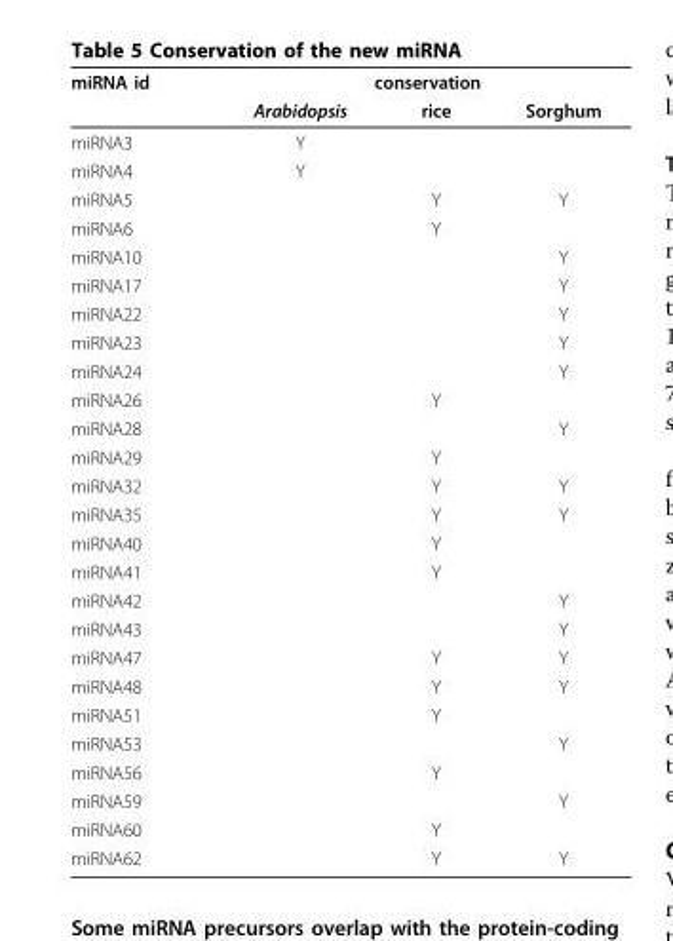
<table><thead><tr><td rowspan="2">miRNA id</td><td colspan="3">conservation</td></tr><tr><td>Arabidopsis</td><td>rice</td><td>Sorghum</td></tr></thead><tbody><tr><td>miRNA3</td><td>Y</td><td></td><td></td></tr><tr><td>miRNA4</td><td>Y</td><td></td><td></td></tr><tr><td>miRNA5</td><td></td><td>Y</td><td>Y</td></tr><tr><td>miRNA6</td><td></td><td>Y</td><td></td></tr><tr><td>miRNA10</td><td></td><td></td><td>Y</td></tr><tr><td>miRNA17</td><td></td><td></td><td>Y</td></tr><tr><td>miRNA22</td><td></td><td></td><td>Y</td></tr><tr><td>miRNA23</td><td></td><td></td><td>Y</td></tr><tr><td>miRNA24</td><td></td><td></td><td>Y</td></tr><tr><td>miRNA26</td><td></td><td>Y</td><td></td></tr><tr><td>miRNA28</td><td></td><td></td><td>Y</td></tr><tr><td>miRNA29</td><td></td><td>Y</td><td></td></tr><tr><td>miRNA32</td><td></td><td>Y</td><td>Y</td></tr><tr><td>miRNA35</td><td></td><td>Y</td><td>Y</td></tr><tr><td>miRNA40</td><td></td><td>Y</td><td></td></tr><tr><td>miRNA41</td><td></td><td>Y</td><td></td></tr><tr><td>miRNA42</td><td></td><td></td><td>Y</td></tr><tr><td>miRNA43</td><td></td><td></td><td>Y</td></tr><tr><td>miRNA47</td><td></td><td>Y</td><td>Y</td></tr><tr><td>miRNA48</td><td></td><td>Y</td><td>Y</td></tr><tr><td>miRNA51</td><td></td><td>Y</td><td></td></tr><tr><td>miRNA53</td><td></td><td></td><td>Y</td></tr><tr><td>miRNA56</td><td></td><td>Y</td><td></td></tr><tr><td>miRNA59</td><td></td><td></td><td>Y</td></tr><tr><td>miRNA60</td><td></td><td>Y</td><td></td></tr><tr><td>miRNA62</td><td></td><td>Y</td><td>Y</td></tr></tbody></table>